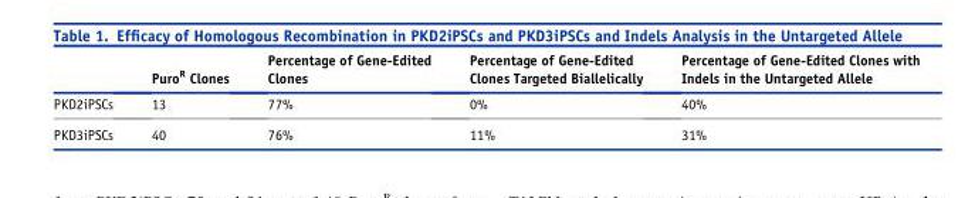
<table><thead><tr><td></td><td>Puro<sup>R</sup> Clones</td><td>Percentage of Gene-Edited Clones</td><td>Percentage of Gene-Edited Clones Targeted Biallelically</td><td>Percentage of Gene-Edited Clones with Indels in the Untargeted Allele</td></tr></thead><tbody><tr><td>PKD2iPSCs</td><td>13</td><td>77%</td><td>0%</td><td>40%</td></tr><tr><td>PKD3iPSCs</td><td>40</td><td>76%</td><td>11%</td><td>31%</td></tr></tbody></table>